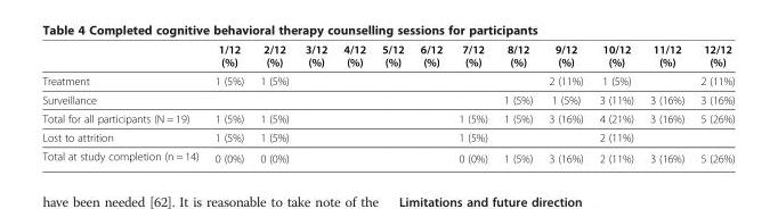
<table><thead><tr><td></td><td>1/12 (%)</td><td>2/12 (%)</td><td>3/12 (%)</td><td>4/12 (%)</td><td>5/12 (%)</td><td>6/12 (%)</td><td>7/12 (%)</td><td>8/12 (%)</td><td>9/12 (%)</td><td>10/12 (%)</td><td>11/12 (%)</td><td>12/12 (%)</td></tr></thead><tbody><tr><td>Treatment</td><td>1 (5%)</td><td>1 (5%)</td><td></td><td></td><td></td><td></td><td></td><td></td><td>2 (11%)</td><td>1 (5%)</td><td></td><td>2 (11%)</td></tr><tr><td>Surveillance</td><td></td><td></td><td></td><td></td><td></td><td></td><td></td><td>1 (5%)</td><td>1 (5%)</td><td>3 (11%)</td><td>3 (16%)</td><td>3 (16%)</td></tr><tr><td>Total for all participants (N = 19)</td><td>1 (5%)</td><td>1 (5%)</td><td></td><td></td><td></td><td></td><td>1 (5%)</td><td>1 (5%)</td><td>3 (16%)</td><td>4 (21%)</td><td>3 (16%)</td><td>5 (26%)</td></tr><tr><td>Lost to attrition</td><td>1 (5%)</td><td>1 (5%)</td><td></td><td></td><td></td><td></td><td>1 (5%)</td><td></td><td></td><td>2 (11%)</td><td></td><td></td></tr><tr><td>Total at study completion (n = 14)</td><td>0 (0%)</td><td>0 (0%)</td><td></td><td></td><td></td><td></td><td>0 (0%)</td><td>1 (5%)</td><td>3 (16%)</td><td>2 (11%)</td><td>3 (16%)</td><td>5 (26%)</td></tr></tbody></table>